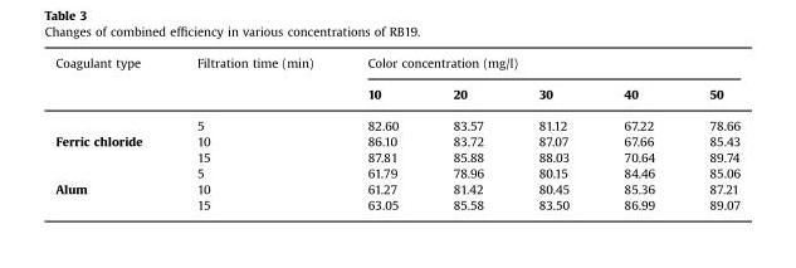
<table><thead><tr><td rowspan="2">Coagulant type</td><td rowspan="2">Filtration time (min)</td><td colspan="5">Color concentration (mg/l)</td></tr><tr><td>10</td><td>20</td><td>30</td><td>40</td><td>50</td></tr></thead><tbody><tr><td></td><td>5</td><td>82.60</td><td>83.57</td><td>81.12</td><td>67.22</td><td>78.66</td></tr><tr><td rowspan="3">Ferric chloride</td><td>10</td><td>86.10</td><td>83.72</td><td>87.07</td><td>67.66</td><td>85.43</td></tr><tr><td>15</td><td>87.81</td><td>85.88</td><td>88.03</td><td>70.64</td><td>89.74</td></tr><tr><td>5</td><td>61.79</td><td>78.96</td><td>80.15</td><td>84.46</td><td>85.06</td></tr><tr><td rowspan="2">Alum</td><td>10</td><td>61.27</td><td>81.42</td><td>80.45</td><td>85.36</td><td>87.21</td></tr><tr><td>15</td><td>63.05</td><td>85.58</td><td>83.50</td><td>86.99</td><td>89.07</td></tr></tbody></table>